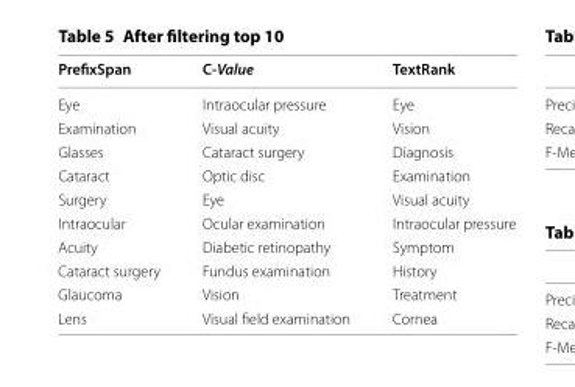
<table><thead><tr><td>PrefixSpan</td><td>C‑Value</td><td>TextRank</td></tr></thead><tbody><tr><td>Eye</td><td>Intraocular pressure</td><td>Eye</td></tr><tr><td>Examination</td><td>Visual acuity</td><td>Vision</td></tr><tr><td>Glasses</td><td>Cataract surgery</td><td>Diagnosis</td></tr><tr><td>Cataract</td><td>Optic disc</td><td>Examination</td></tr><tr><td>Surgery</td><td>Eye</td><td>Visual acuity</td></tr><tr><td>Intraocular</td><td>Ocular examination</td><td>Intraocular pressure</td></tr><tr><td>Acuity</td><td>Diabetic retinopathy</td><td>Symptom</td></tr><tr><td>Cataract surgery</td><td>Fundus examination</td><td>History</td></tr><tr><td>Glaucoma</td><td>Vision</td><td>Treatment</td></tr><tr><td>Lens</td><td>Visual field examination</td><td>Cornea</td></tr></tbody></table>